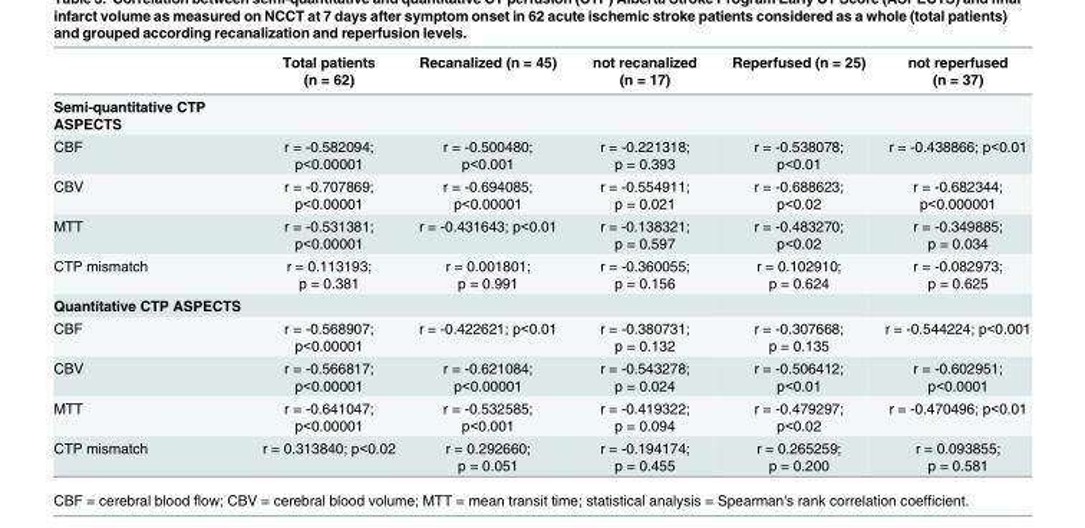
<table><thead><tr><td></td><td>Total patients (n = 62)</td><td>Recanalized (n = 45)</td><td>not recanalized (n = 17)</td><td>Reperfused (n = 25)</td><td>not reperfused (n = 37)</td></tr></thead><tbody><tr><td colspan="6">Semi-quantitative CTP ASPECTS</td></tr><tr><td>CBF</td><td>r = -0.582094; p&lt;0.00001</td><td>r = -0.500480; p&lt;0.001</td><td>r = -0.221318; p = 0.393</td><td>r = -0.538078; p&lt;0.01</td><td>r = -0.438866; p&lt;0.01</td></tr><tr><td>CBV</td><td>r = -0.707869; p&lt;0.00001</td><td>r = -0.694085; p&lt;0.00001</td><td>r = -0.554911; p = 0.021</td><td>r = -0.688623; p&lt;0.02</td><td>r = -0.682344; p&lt;0.000001</td></tr><tr><td>MTT</td><td>r = -0.531381; p&lt;0.00001</td><td>r = -0.431643; p&lt;0.01</td><td>r = -0.138321; p = 0.597</td><td>r = -0.483270; p&lt;0.02</td><td>r = -0.349885; p = 0.034</td></tr><tr><td>CTP mismatch</td><td>r = 0.113193; p = 0.381</td><td>r = 0.001801; p = 0.991</td><td>r = -0.360055; p = 0.156</td><td>r = 0.102910; p = 0.624</td><td>r = -0.082973; p = 0.625</td></tr><tr><td colspan="6">Quantitative CTP ASPECTS</td></tr><tr><td>CBF</td><td>r = -0.568907; p&lt;0.00001</td><td>r = -0.422621; p&lt;0.01</td><td>r = -0.380731; p = 0.132</td><td>r = -0.307668; p = 0.135</td><td>r = -0.544224; p&lt;0.001</td></tr><tr><td>CBV</td><td>r = -0.566817; p&lt;0.00001</td><td>r = -0.621084; p&lt;0.00001</td><td>r = -0.543278; p = 0.024</td><td>r = -0.506412; p&lt;0.01</td><td>r = -0.602951; p&lt;0.0001</td></tr><tr><td>MTT</td><td>r = -0.641047; p&lt;0.00001</td><td>r = -0.532585; p&lt;0.001</td><td>r = -0.419322; p = 0.094</td><td>r = -0.479297; p&lt;0.02</td><td>r = -0.470496; p&lt;0.01</td></tr><tr><td>CTP mismatch</td><td>r = 0.313840; p&lt;0.02</td><td>r = 0.292660; p = 0.051</td><td>r = -0.194174; p = 0.455</td><td>r = 0.265259; p = 0.200</td><td>r = 0.093855; p = 0.581</td></tr></tbody></table>